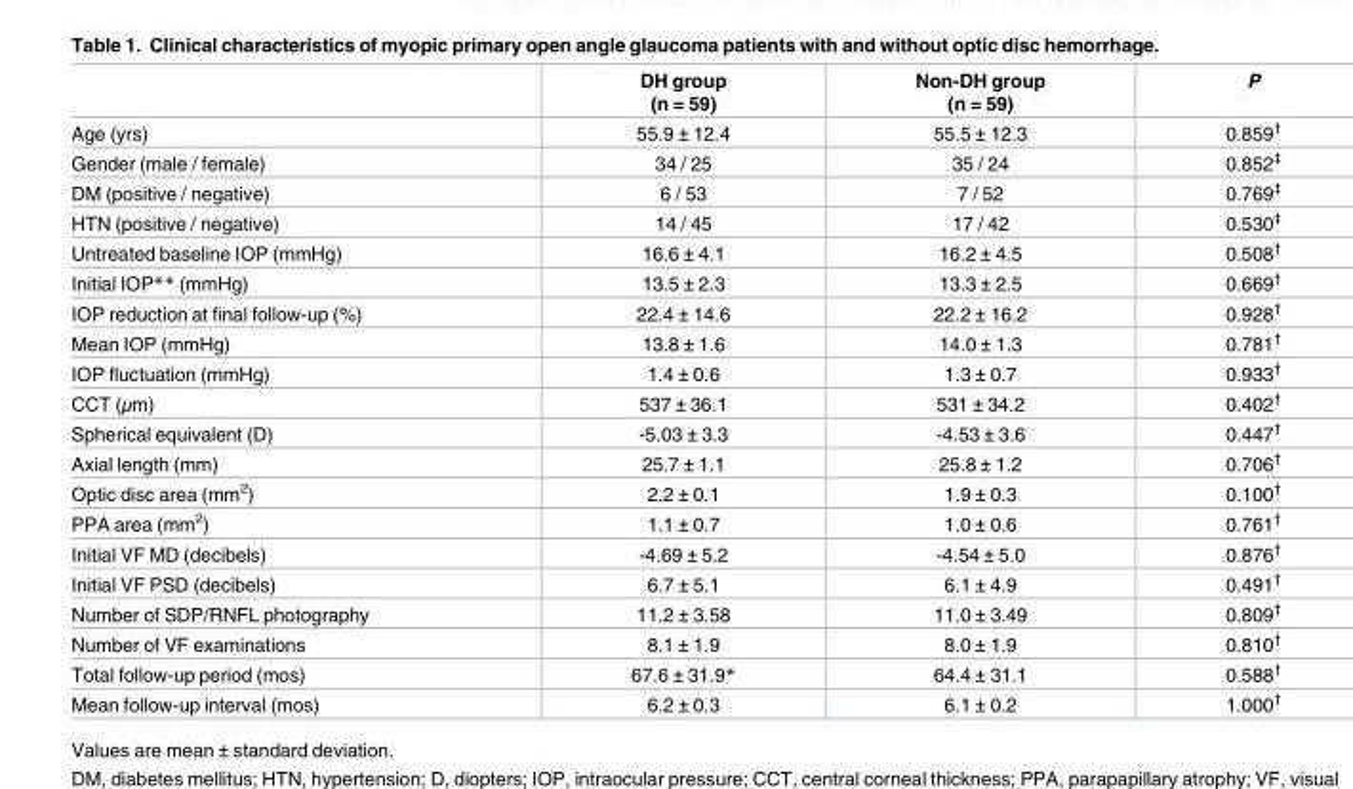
<table><thead><tr><td></td><td>DH group (n = 59)</td><td>Non-DH group (n = 59)</td><td>P</td></tr></thead><tbody><tr><td>Age (yrs)</td><td>55.9 ± 12.4</td><td>55.5 ± 12.3</td><td>0.859<sup>†</sup></td></tr><tr><td>Gender (male / female)</td><td>34 / 25</td><td>35 / 24</td><td>0.852<sup>‡</sup></td></tr><tr><td>DM (positive / negative)</td><td>6 / 53</td><td>7 / 52</td><td>0.769<sup>‡</sup></td></tr><tr><td>HTN (positive / negative)</td><td>14 / 45</td><td>17 / 42</td><td>0.530<sup>‡</sup></td></tr><tr><td>Untreated baseline IOP (mmHg)</td><td>16.6 ± 4.1</td><td>16.2 ± 4.5</td><td>0.508<sup>†</sup></td></tr><tr><td>Initial IOP** (mmHg)</td><td>13.5 ± 2.3</td><td>13.3 ± 2.5</td><td>0.669<sup>†</sup></td></tr><tr><td>IOP reduction at final follow-up (%)</td><td>22.4 ± 14.6</td><td>22.2 ± 16.2</td><td>0.928<sup>†</sup></td></tr><tr><td>Mean IOP (mmHg)</td><td>13.8 ± 1.6</td><td>14.0 ± 1.3</td><td>0.781<sup>†</sup></td></tr><tr><td>IOP fluctuation (mmHg)</td><td>1.4 ± 0.6</td><td>1.3 ± 0.7</td><td>0.933<sup>†</sup></td></tr><tr><td>CCT (μm)</td><td>537 ± 36.1</td><td>531 ± 34.2</td><td>0.402<sup>†</sup></td></tr><tr><td>Spherical equivalent (D)</td><td>-5.03 ± 3.3</td><td>-4.53 ± 3.6</td><td>0.447<sup>†</sup></td></tr><tr><td>Axial length (mm)</td><td>25.7 ± 1.1</td><td>25.8 ± 1.2</td><td>0.706<sup>†</sup></td></tr><tr><td>Optic disc area (mm<sup>2</sup>)</td><td>2.2 ± 0.1</td><td>1.9 ± 0.3</td><td>0.100<sup>†</sup></td></tr><tr><td>PPA area (mm<sup>2</sup>)</td><td>1.1 ± 0.7</td><td>1.0 ± 0.6</td><td>0.761<sup>†</sup></td></tr><tr><td>Initial VF MD (decibels)</td><td>-4.69 ± 5.2</td><td>-4.54 ± 5.0</td><td>0.876<sup>†</sup></td></tr><tr><td>Initial VF PSD (decibels)</td><td>6.7 ± 5.1</td><td>6.1 ± 4.9</td><td>0.491<sup>†</sup></td></tr><tr><td>Number of SDP/RNFL photography</td><td>11.2 ± 3.58</td><td>11.0 ± 3.49</td><td>0.809<sup>†</sup></td></tr><tr><td>Number of VF examinations</td><td>8.1 ± 1.9</td><td>8.0 ± 1.9</td><td>0.810<sup>†</sup></td></tr><tr><td>Total follow-up period (mos)</td><td>67.6 ± 31.9*</td><td>64.4 ± 31.1</td><td>0.588<sup>†</sup></td></tr><tr><td>Mean follow-up interval (mos)</td><td>6.2 ± 0.3</td><td>6.1 ± 0.2</td><td>1.000<sup>†</sup></td></tr></tbody></table>